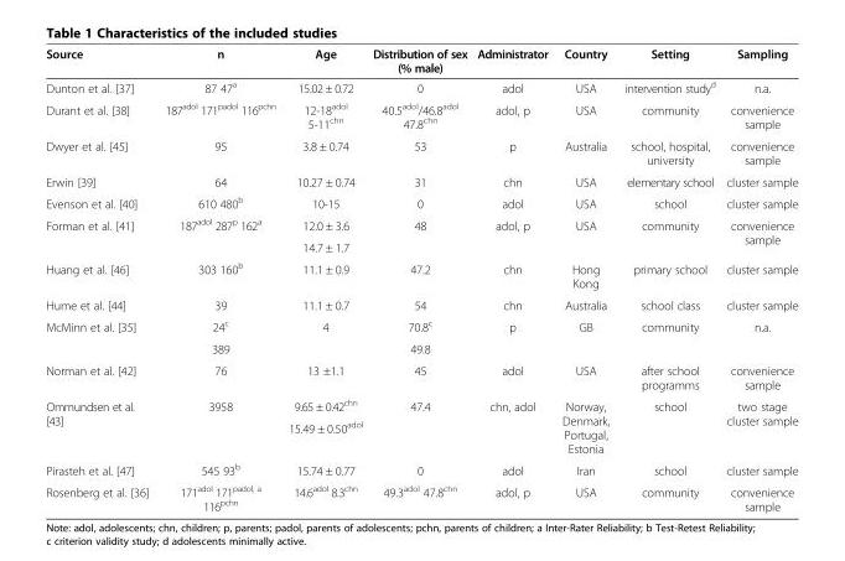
<table><thead><tr><td>Source</td><td>n</td><td>Age</td><td>Distribution of sex (% male)</td><td>Administrator</td><td>Country</td><td>Setting</td><td>Sampling</td></tr></thead><tbody><tr><td>Dunton et al. [37]</td><td>87 47<sup>a</sup></td><td>15.02 ± 0.72</td><td>0</td><td>adol</td><td>USA</td><td>intervention study<sup>d</sup></td><td>n.a.</td></tr><tr><td>Durant et al. [38]</td><td>187<sup>adol</sup> 171<sup>padol</sup> 116<sup>pchn</sup></td><td>12-18<sup>adol</sup> 5-11<sup>chn</sup></td><td>40.5<sup>adol</sup>/46.8<sup>adol</sup> 47.8<sup>chn</sup></td><td>adol, p</td><td>USA</td><td>community</td><td>convenience sample</td></tr><tr><td>Dwyer et al. [45]</td><td>95</td><td>3.8 ± 0.74</td><td>53</td><td>p</td><td>Australia</td><td>school, hospital, university</td><td>convenience sample</td></tr><tr><td>Erwin [39]</td><td>64</td><td>10.27 ± 0.74</td><td>31</td><td>chn</td><td>USA</td><td>elementary school</td><td>cluster sample</td></tr><tr><td>Evenson et al. [40]</td><td>610 480<sup>b</sup></td><td>10-15</td><td>0</td><td>adol</td><td>USA</td><td>school</td><td>cluster sample</td></tr><tr><td rowspan="2">Forman et al. [41]</td><td rowspan="2">187<sup>adol</sup> 287<sup>p</sup> 162<sup>a</sup></td><td>12.0 ± 3.6</td><td rowspan="2">48</td><td rowspan="2">adol, p</td><td rowspan="2">USA</td><td rowspan="2">community</td><td rowspan="2">convenience sample</td></tr><tr><td>14.7 ± 1.7</td></tr><tr><td>Huang et al. [46]</td><td>303 160<sup>b</sup></td><td>11.1 ± 0.9</td><td>47.2</td><td>chn</td><td>Hong Kong</td><td>primary school</td><td>cluster sample</td></tr><tr><td>Hume et al. [44]</td><td>39</td><td>11.1 ± 0.7</td><td>54</td><td>chn</td><td>Australia</td><td>school class</td><td>cluster sample</td></tr><tr><td rowspan="2">McMinn et al. [35]</td><td>24<sup>c</sup></td><td rowspan="2">4</td><td>70.8<sup>c</sup></td><td rowspan="2">p</td><td rowspan="2">GB</td><td rowspan="2">community</td><td rowspan="2">n.a.</td></tr><tr><td>389</td><td>49.8</td></tr><tr><td>Norman et al. [42]</td><td>76</td><td>13 ±1.1</td><td>45</td><td>adol</td><td>USA</td><td>after school programms</td><td>convenience sample</td></tr><tr><td rowspan="2">Ommundsen et al. [43]</td><td rowspan="2">3958</td><td>9.65 ± 0.42<sup>chn</sup></td><td rowspan="2">47.4</td><td rowspan="2">chn, adol</td><td rowspan="2">Norway, Denmark, Portugal, Estonia</td><td rowspan="2">school</td><td rowspan="2">two stage cluster sample</td></tr><tr><td>15.49 ± 0.50<sup>adol</sup></td></tr><tr><td>Pirasteh et al. [47]</td><td>545 93<sup>b</sup></td><td>15.74 ± 0.77</td><td>0</td><td>adol</td><td>Iran</td><td>school</td><td>cluster sample</td></tr><tr><td>Rosenberg et al. [36]</td><td>171<sup>adol</sup> 171<sup>padol, a</sup> 116<sup>pchn</sup></td><td>14.6<sup>adol</sup> 8.3<sup>chn</sup></td><td>49.3<sup>adol</sup> 47.8<sup>chn</sup></td><td>adol, p</td><td>USA</td><td>community</td><td>convenience sample</td></tr></tbody></table>